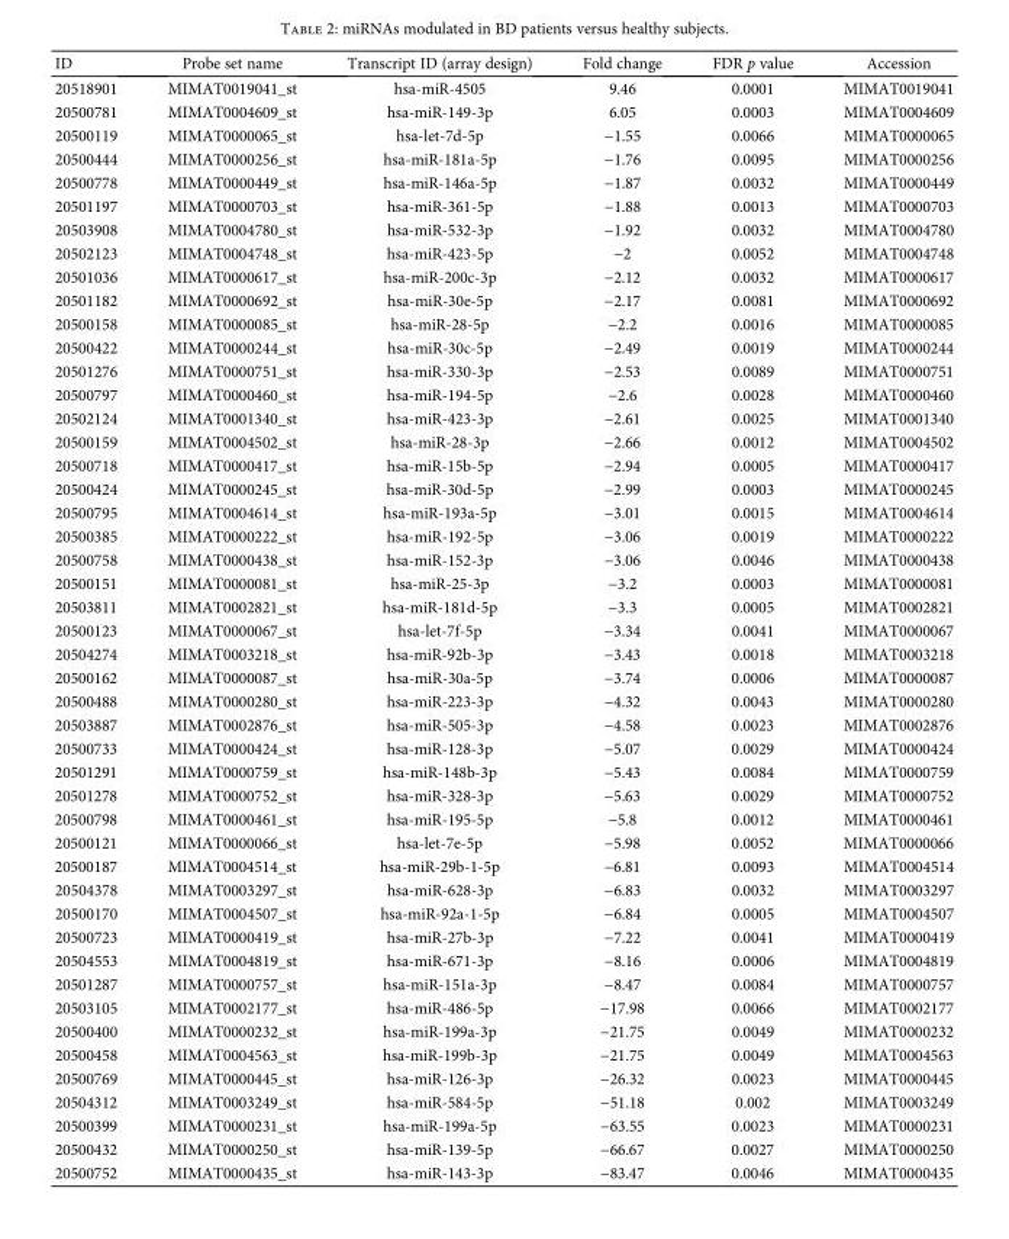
<table><thead><tr><td>ID</td><td>Probe set name</td><td>Transcript ID (array design)</td><td>Fold change</td><td>FDR p value</td><td>Accession</td></tr></thead><tbody><tr><td>20518901</td><td>MIMAT0019041_st</td><td>hsa-miR-4505</td><td>9.46</td><td>0.0001</td><td>MIMAT0019041</td></tr><tr><td>20500781</td><td>MIMAT0004609_st</td><td>hsa-miR-149-3p</td><td>6.05</td><td>0.0003</td><td>MIMAT0004609</td></tr><tr><td>20500119</td><td>MIMAT0000065_st</td><td>hsa-let-7d-5p</td><td>−1.55</td><td>0.0066</td><td>MIMAT0000065</td></tr><tr><td>20500444</td><td>MIMAT0000256_st</td><td>hsa-miR-181a-5p</td><td>−1.76</td><td>0.0095</td><td>MIMAT0000256</td></tr><tr><td>20500778</td><td>MIMAT0000449_st</td><td>hsa-miR-146a-5p</td><td>−1.87</td><td>0.0032</td><td>MIMAT0000449</td></tr><tr><td>20501197</td><td>MIMAT0000703_st</td><td>hsa-miR-361-5p</td><td>−1.88</td><td>0.0013</td><td>MIMAT0000703</td></tr><tr><td>20503908</td><td>MIMAT0004780_st</td><td>hsa-miR-532-3p</td><td>−1.92</td><td>0.0032</td><td>MIMAT0004780</td></tr><tr><td>20502123</td><td>MIMAT0004748_st</td><td>hsa-miR-423-5p</td><td>−2</td><td>0.0052</td><td>MIMAT0004748</td></tr><tr><td>20501036</td><td>MIMAT0000617_st</td><td>hsa-miR-200c-3p</td><td>−2.12</td><td>0.0032</td><td>MIMAT0000617</td></tr><tr><td>20501182</td><td>MIMAT0000692_st</td><td>hsa-miR-30e-5p</td><td>−2.17</td><td>0.0081</td><td>MIMAT0000692</td></tr><tr><td>20500158</td><td>MIMAT0000085_st</td><td>hsa-miR-28-5p</td><td>−2.2</td><td>0.0016</td><td>MIMAT0000085</td></tr><tr><td>20500422</td><td>MIMAT0000244_st</td><td>hsa-miR-30c-5p</td><td>−2.49</td><td>0.0019</td><td>MIMAT0000244</td></tr><tr><td>20501276</td><td>MIMAT0000751_st</td><td>hsa-miR-330-3p</td><td>−2.53</td><td>0.0089</td><td>MIMAT0000751</td></tr><tr><td>20500797</td><td>MIMAT0000460_st</td><td>hsa-miR-194-5p</td><td>−2.6</td><td>0.0028</td><td>MIMAT0000460</td></tr><tr><td>20502124</td><td>MIMAT0001340_st</td><td>hsa-miR-423-3p</td><td>−2.61</td><td>0.0025</td><td>MIMAT0001340</td></tr><tr><td>20500159</td><td>MIMAT0004502_st</td><td>hsa-miR-28-3p</td><td>−2.66</td><td>0.0012</td><td>MIMAT0004502</td></tr><tr><td>20500718</td><td>MIMAT0000417_st</td><td>hsa-miR-15b-5p</td><td>−2.94</td><td>0.0005</td><td>MIMAT0000417</td></tr><tr><td>20500424</td><td>MIMAT0000245_st</td><td>hsa-miR-30d-5p</td><td>−2.99</td><td>0.0003</td><td>MIMAT0000245</td></tr><tr><td>20500795</td><td>MIMAT0004614_st</td><td>hsa-miR-193a-5p</td><td>−3.01</td><td>0.0015</td><td>MIMAT0004614</td></tr><tr><td>20500385</td><td>MIMAT0000222_st</td><td>hsa-miR-192-5p</td><td>−3.06</td><td>0.0019</td><td>MIMAT0000222</td></tr><tr><td>20500758</td><td>MIMAT0000438_st</td><td>hsa-miR-152-3p</td><td>−3.06</td><td>0.0046</td><td>MIMAT0000438</td></tr><tr><td>20500151</td><td>MIMAT0000081_st</td><td>hsa-miR-25-3p</td><td>−3.2</td><td>0.0003</td><td>MIMAT0000081</td></tr><tr><td>20503811</td><td>MIMAT0002821_st</td><td>hsa-miR-181d-5p</td><td>−3.3</td><td>0.0005</td><td>MIMAT0002821</td></tr><tr><td>20500123</td><td>MIMAT0000067_st</td><td>hsa-let-7f-5p</td><td>−3.34</td><td>0.0041</td><td>MIMAT0000067</td></tr><tr><td>20504274</td><td>MIMAT0003218_st</td><td>hsa-miR-92b-3p</td><td>−3.43</td><td>0.0018</td><td>MIMAT0003218</td></tr><tr><td>20500162</td><td>MIMAT0000087_st</td><td>hsa-miR-30a-5p</td><td>−3.74</td><td>0.0006</td><td>MIMAT0000087</td></tr><tr><td>20500488</td><td>MIMAT0000280_st</td><td>hsa-miR-223-3p</td><td>−4.32</td><td>0.0043</td><td>MIMAT0000280</td></tr><tr><td>20503887</td><td>MIMAT0002876_st</td><td>hsa-miR-505-3p</td><td>−4.58</td><td>0.0023</td><td>MIMAT0002876</td></tr><tr><td>20500733</td><td>MIMAT0000424_st</td><td>hsa-miR-128-3p</td><td>−5.07</td><td>0.0029</td><td>MIMAT0000424</td></tr><tr><td>20501291</td><td>MIMAT0000759_st</td><td>hsa-miR-148b-3p</td><td>−5.43</td><td>0.0084</td><td>MIMAT0000759</td></tr><tr><td>20501278</td><td>MIMAT0000752_st</td><td>hsa-miR-328-3p</td><td>−5.63</td><td>0.0029</td><td>MIMAT0000752</td></tr><tr><td>20500798</td><td>MIMAT0000461_st</td><td>hsa-miR-195-5p</td><td>−5.8</td><td>0.0012</td><td>MIMAT0000461</td></tr><tr><td>20500121</td><td>MIMAT0000066_st</td><td>hsa-let-7e-5p</td><td>−5.98</td><td>0.0052</td><td>MIMAT0000066</td></tr><tr><td>20500187</td><td>MIMAT0004514_st</td><td>hsa-miR-29b-1-5p</td><td>−6.81</td><td>0.0093</td><td>MIMAT0004514</td></tr><tr><td>20504378</td><td>MIMAT0003297_st</td><td>hsa-miR-628-3p</td><td>−6.83</td><td>0.0032</td><td>MIMAT0003297</td></tr><tr><td>20500170</td><td>MIMAT0004507_st</td><td>hsa-miR-92a-1-5p</td><td>−6.84</td><td>0.0005</td><td>MIMAT0004507</td></tr><tr><td>20500723</td><td>MIMAT0000419_st</td><td>hsa-miR-27b-3p</td><td>−7.22</td><td>0.0041</td><td>MIMAT0000419</td></tr><tr><td>20504553</td><td>MIMAT0004819_st</td><td>hsa-miR-671-3p</td><td>−8.16</td><td>0.0006</td><td>MIMAT0004819</td></tr><tr><td>20501287</td><td>MIMAT0000757_st</td><td>hsa-miR-151a-3p</td><td>−8.47</td><td>0.0084</td><td>MIMAT0000757</td></tr><tr><td>20503105</td><td>MIMAT0002177_st</td><td>hsa-miR-486-5p</td><td>−17.98</td><td>0.0066</td><td>MIMAT0002177</td></tr><tr><td>20500400</td><td>MIMAT0000232_st</td><td>hsa-miR-199a-3p</td><td>−21.75</td><td>0.0049</td><td>MIMAT0000232</td></tr><tr><td>20500458</td><td>MIMAT0004563_st</td><td>hsa-miR-199b-3p</td><td>−21.75</td><td>0.0049</td><td>MIMAT0004563</td></tr><tr><td>20500769</td><td>MIMAT0000445_st</td><td>hsa-miR-126-3p</td><td>−26.32</td><td>0.0023</td><td>MIMAT0000445</td></tr><tr><td>20504312</td><td>MIMAT0003249_st</td><td>hsa-miR-584-5p</td><td>−51.18</td><td>0.002</td><td>MIMAT0003249</td></tr><tr><td>20500399</td><td>MIMAT0000231_st</td><td>hsa-miR-199a-5p</td><td>−63.55</td><td>0.0023</td><td>MIMAT0000231</td></tr><tr><td>20500432</td><td>MIMAT0000250_st</td><td>hsa-miR-139-5p</td><td>−66.67</td><td>0.0027</td><td>MIMAT0000250</td></tr><tr><td>20500752</td><td>MIMAT0000435_st</td><td>hsa-miR-143-3p</td><td>−83.47</td><td>0.0046</td><td>MIMAT0000435</td></tr></tbody></table>